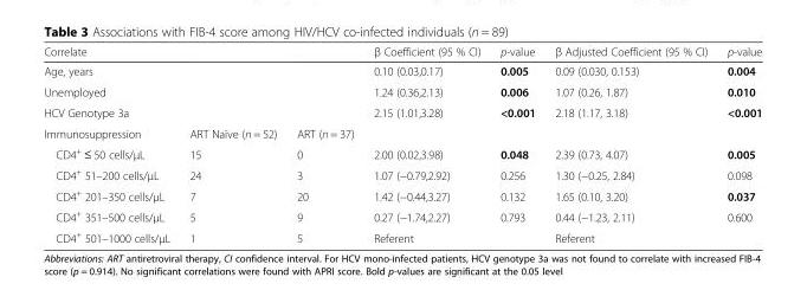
<table><thead><tr><td>Correlate</td><td></td><td></td><td>β Coefficient (95 % CI)</td><td>p-value</td><td>β Adjusted Coefficient (95 % CI)</td><td>p-value</td></tr></thead><tbody><tr><td>Age, years</td><td></td><td></td><td>0.10 (0.03,0.17)</td><td>0.005</td><td>0.09 (0.030, 0.153)</td><td>0.004</td></tr><tr><td>Unemployed</td><td></td><td></td><td>1.24 (0.36,2.13)</td><td>0.006</td><td>1.07 (0.26, 1.87)</td><td>0.010</td></tr><tr><td>HCV Genotype 3a</td><td></td><td></td><td>2.15 (1.01,3.28)</td><td>&lt;0.001</td><td>2.18 (1.17, 3.18)</td><td>&lt;0.001</td></tr><tr><td>Immunosuppression</td><td>ART Naïve (n = 52)</td><td>ART (n = 37)</td><td></td><td></td><td></td><td></td></tr><tr><td>CD4<sup>+</sup> ≤ 50 cells/μL</td><td>15</td><td>0</td><td>2.00 (0.02,3.98)</td><td>0.048</td><td>2.39 (0.73, 4.07)</td><td>0.005</td></tr><tr><td>CD4<sup>+</sup> 51–200 cells/μL</td><td>24</td><td>3</td><td>1.07 (−0.79,2.92)</td><td>0.256</td><td>1.30 (−0.25, 2.84)</td><td>0.098</td></tr><tr><td>CD4<sup>+</sup> 201–350 cells/μL</td><td>7</td><td>20</td><td>1.42 (−0.44,3.27)</td><td>0.132</td><td>1.65 (0.10, 3.20)</td><td>0.037</td></tr><tr><td>CD4<sup>+</sup> 351–500 cells/μL</td><td>5</td><td>9</td><td>0.27 (−1.74,2.27)</td><td>0.793</td><td>0.44 (−1.23, 2.11)</td><td>0.600</td></tr><tr><td>CD4<sup>+</sup> 501–1000 cells/μL</td><td>1</td><td>5</td><td>Referent</td><td></td><td>Referent</td><td></td></tr></tbody></table>